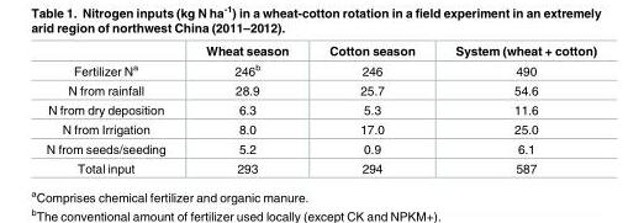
<table><thead><tr><td></td><td>Wheat season</td><td>Cotton season</td><td>System (wheat + cotton)</td></tr></thead><tbody><tr><td>Fertilizer N<sup>a</sup></td><td>246<sup>b</sup></td><td>246</td><td>490</td></tr><tr><td>N from rainfall</td><td>28.9</td><td>25.7</td><td>54.6</td></tr><tr><td>N from dry deposition</td><td>6.3</td><td>5.3</td><td>11.6</td></tr><tr><td>N from Irrigation</td><td>8.0</td><td>17.0</td><td>25.0</td></tr><tr><td>N from seeds/seeding</td><td>5.2</td><td>0.9</td><td>6.1</td></tr><tr><td>Total input</td><td>293</td><td>294</td><td>587</td></tr></tbody></table>